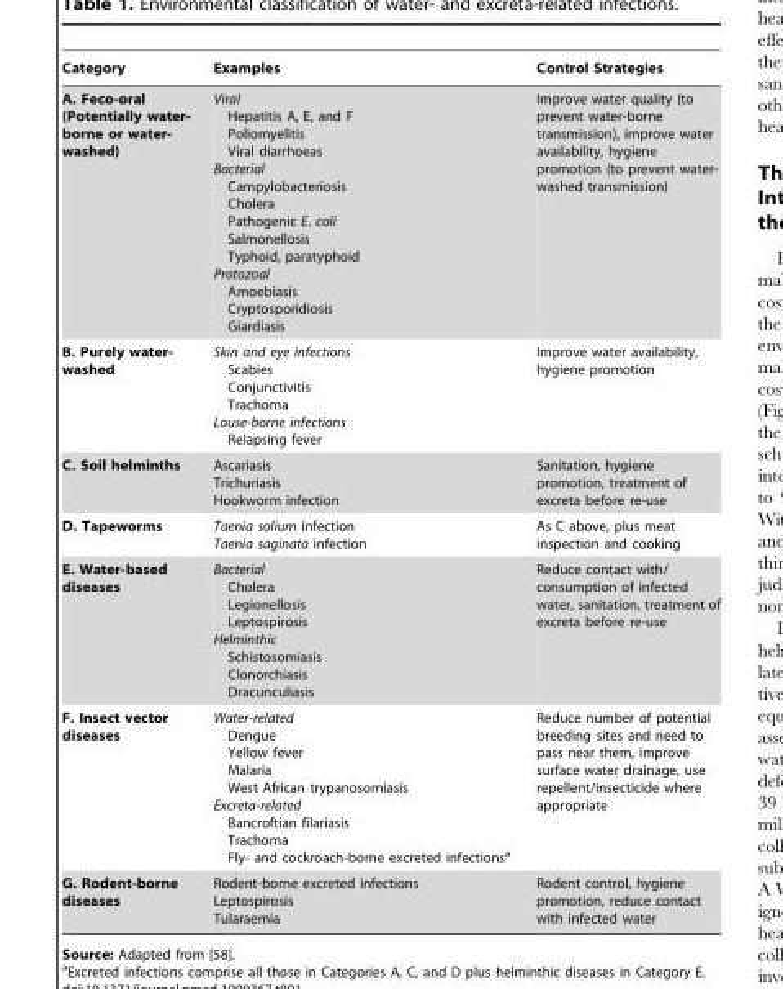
<table><thead><tr><td>Category</td><td>Examples</td><td>Control Strategies</td></tr></thead><tbody><tr><td>A. Feco-oral (Potentially water- borne or water- washed)</td><td>Viral Hepatitis A, E, and F Poliomyelitis Viral diarrhoeas Bacterial Campylobacteriosis Cholera Pathogenic E. coli Salmonellosis Typhoid, paratyphoid Protozoal Amoebiasis Cryptosporidiosis Giardiasis</td><td>Improve water quality (to prevent water-borne transmission), improve water availability, hygiene promotion (to prevent water- washed transmission)</td></tr><tr><td>B. Purely water- washed</td><td>Skin and eye infections Scabies Conjunctivitis Trachoma Louse-borne infections Relapsing fever</td><td>Improve water availability, hygiene promotion</td></tr><tr><td>C. Soil helminths</td><td>Ascariasis Trichuriasis Hookworm infection</td><td>Sanitation, hygiene promotion, treatment of excreta before re-use</td></tr><tr><td>D. Tapeworms</td><td>Taenia solium infection Taenia saginata infection</td><td>As C above, plus meat inspection and cooking</td></tr><tr><td>E. Water-based diseases</td><td>Bacterial Cholera Legionellosis Leptospirosis Helminthic Schistosomiasis Clonorchiasis Dracunculiasis</td><td>Reduce contact with/ consumption of infected water, sanitation, treatment of excreta before re-use</td></tr><tr><td>F. Insect vector diseases</td><td>Water-related Dengue Yellow fever Malaria West African trypanosomiasis Excreta-related Bancroftian filariasis Trachoma Fly- and cockroach-borne excreted infections<sup>a</sup></td><td>Reduce number of potential breeding sites and need to pass near them, improve surface water drainage, use repellent/insecticide where appropriate</td></tr><tr><td>G. Rodent-borne diseases</td><td>Rodent-borne excreted infections Leptospirosis Tularaemia</td><td>Rodent control, hygiene promotion, reduce contact with infected water</td></tr></tbody></table>